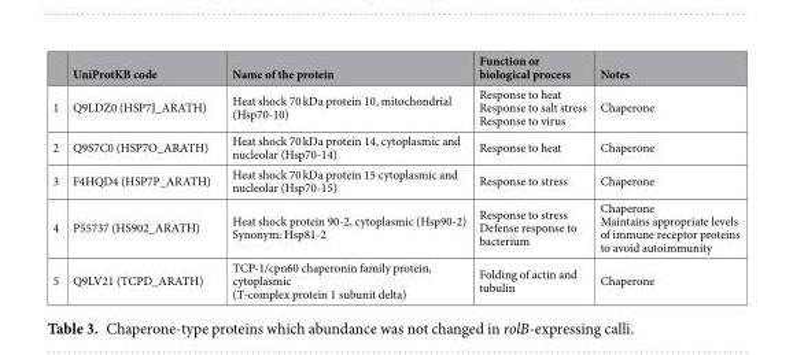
<table><thead><tr><td></td><td>UniProtKB code</td><td>Name of the protein</td><td>Function or biological process</td><td>Notes</td></tr></thead><tbody><tr><td>1</td><td>Q9LDZ0 (HSP7J_ARATH)</td><td>Heat shock 70 kDa protein 10, mitochondrial (Hsp70-10)</td><td>Response to heat Response to salt stress Response to virus</td><td>Chaperone</td></tr><tr><td>2</td><td>Q9S7C0 (HSP7O_ARATH)</td><td>Heat shock 70 kDa protein 14, cytoplasmic and nucleolar (Hsp70-14)</td><td>Response to heat</td><td>Chaperone</td></tr><tr><td>3</td><td>F4HQD4 (HSP7P_ARATH)</td><td>Heat shock 70 kDa protein 15 cytoplasmic and nucleolar (Hsp70-15)</td><td>Response to stress</td><td>Chaperone</td></tr><tr><td>4</td><td>P55737 (HS902_ARATH)</td><td>Heat shock protein 90-2, cytoplasmic (Hsp90-2) Synonym: Hsp81-2</td><td>Response to stress Defense response to bacterium</td><td>Chaperone Maintains appropriate levels of immune receptor proteins to avoid autoimmunity</td></tr><tr><td>5</td><td>Q9LV21 (TCPD_ARATH)</td><td>TCP-1/cpn60 chaperonin family protein, cytoplasmic (T-complex protein 1 subunit delta)</td><td>Folding of actin and tubulin</td><td>Chaperone</td></tr></tbody></table>